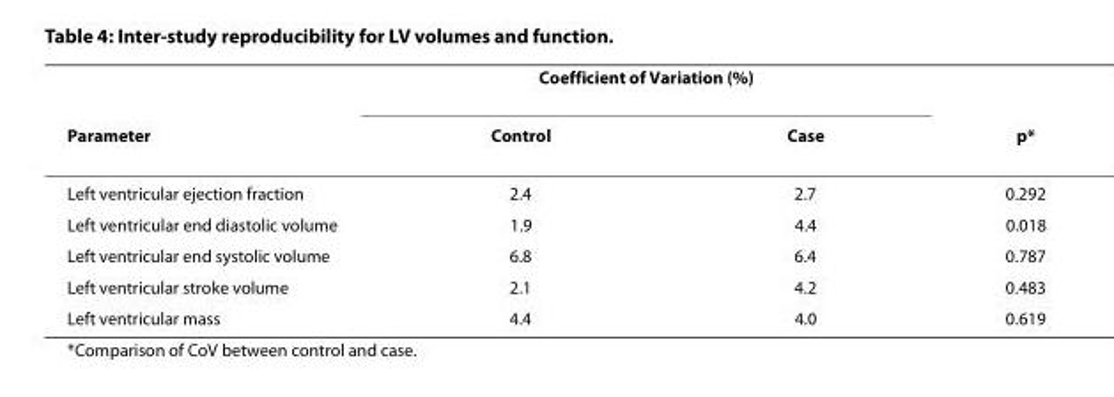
<table><thead><tr><td rowspan="2">Parameter</td><td colspan="2">Coefficient of Variation (%)</td><td rowspan="2">p*</td></tr><tr><td>Control</td><td>Case</td></tr></thead><tbody><tr><td>Left ventricular ejection fraction</td><td>2.4</td><td>2.7</td><td>0.292</td></tr><tr><td>Left ventricular end diastolic volume</td><td>1.9</td><td>4.4</td><td>0.018</td></tr><tr><td>Left ventricular end systolic volume</td><td>6.8</td><td>6.4</td><td>0.787</td></tr><tr><td>Left ventricular stroke volume</td><td>2.1</td><td>4.2</td><td>0.483</td></tr><tr><td>Left ventricular mass</td><td>4.4</td><td>4.0</td><td>0.619</td></tr></tbody></table>